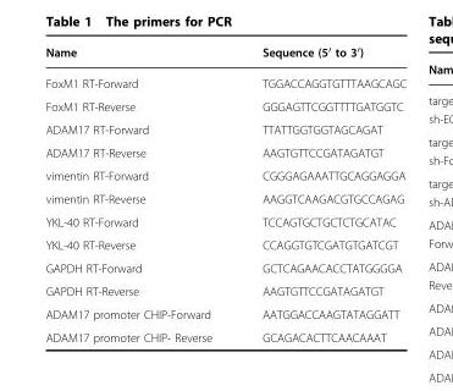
<table><thead><tr><td>Name</td><td>Sequence (5′ to 3′)</td></tr></thead><tbody><tr><td>FoxM1 RT-Forward</td><td>TGGACCAGGTGTTTAAGCAGC</td></tr><tr><td>FoxM1 RT-Reverse</td><td>GGGAGTTCGGTTTTGATGGTC</td></tr><tr><td>ADAM17 RT-Forward</td><td>TTATTGGTGGTAGCAGAT</td></tr><tr><td>ADAM17 RT-Reverse</td><td>AAGTGTTCCGATAGATGT</td></tr><tr><td>vimentin RT-Forward</td><td>CGGGAGAAATTGCAGGAGGA</td></tr><tr><td>vimentin RT-Reverse</td><td>AAGGTCAAGACGTGCCAGAG</td></tr><tr><td>YKL-40 RT-Forward</td><td>TCCAGTGCTGCTCTGCATAC</td></tr><tr><td>YKL-40 RT-Reverse</td><td>CCAGGTGTCGATGTGATCGT</td></tr><tr><td>GAPDH RT-Forward</td><td>GCTCAGAACACCTATGGGGA</td></tr><tr><td>GAPDH RT-Reverse</td><td>AAGTGTTCCGATAGATGT</td></tr><tr><td>ADAM17 promoter CHIP-Forward</td><td>AATGGACCAAGTATAGGATT</td></tr><tr><td>ADAM17 promoter CHIP- Reverse</td><td>GCAGACACTTCAACAAAT</td></tr></tbody></table>